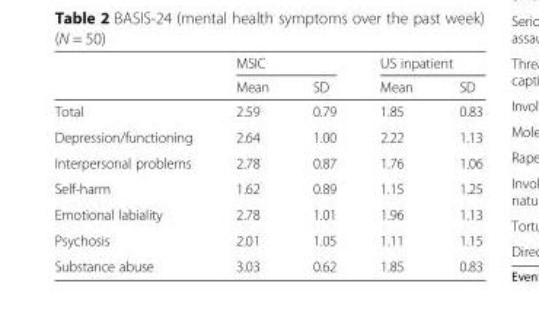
<table><thead><tr><td rowspan="2"></td><td colspan="2">MSIC</td><td colspan="2">US inpatient</td></tr><tr><td>Mean</td><td>SD</td><td>Mean</td><td>SD</td></tr></thead><tbody><tr><td>Total</td><td>2.59</td><td>0.79</td><td>1.85</td><td>0.83</td></tr><tr><td>Depression/functioning</td><td>2.64</td><td>1.00</td><td>2.22</td><td>1.13</td></tr><tr><td>Interpersonal problems</td><td>2.78</td><td>0.87</td><td>1.76</td><td>1.06</td></tr><tr><td>Self-harm</td><td>1.62</td><td>0.89</td><td>1.15</td><td>1.25</td></tr><tr><td>Emotional labiality</td><td>2.78</td><td>1.01</td><td>1.96</td><td>1.13</td></tr><tr><td>Psychosis</td><td>2.01</td><td>1.05</td><td>1.11</td><td>1.15</td></tr><tr><td>Substance abuse</td><td>3.03</td><td>0.62</td><td>1.85</td><td>0.83</td></tr></tbody></table>